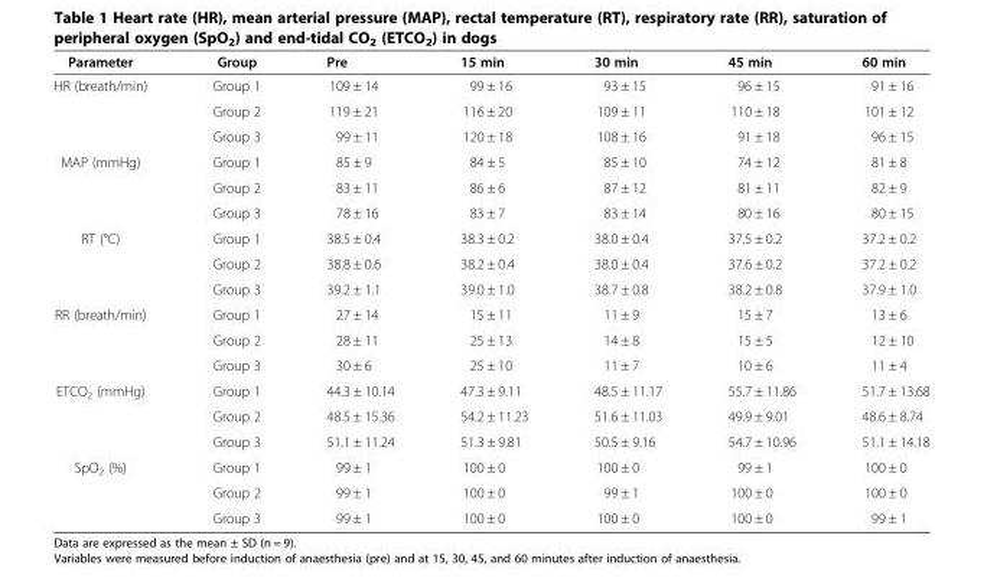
<table><thead><tr><td>Parameter</td><td>Group</td><td>Pre</td><td>15 min</td><td>30 min</td><td>45 min</td><td>60 min</td></tr></thead><tbody><tr><td rowspan="3">HR (breath/min)</td><td>Group 1</td><td>109 ± 14</td><td>99 ± 16</td><td>93 ± 15</td><td>96 ± 15</td><td>91 ± 16</td></tr><tr><td>Group 2</td><td>119 ± 21</td><td>116 ± 20</td><td>109 ± 11</td><td>110 ± 18</td><td>101 ± 12</td></tr><tr><td>Group 3</td><td>99 ± 11</td><td>120 ± 18</td><td>108 ± 16</td><td>91 ± 18</td><td>96 ± 15</td></tr><tr><td rowspan="3">MAP (mmHg)</td><td>Group 1</td><td>85 ± 9</td><td>84 ± 5</td><td>85 ± 10</td><td>74 ± 12</td><td>81 ± 8</td></tr><tr><td>Group 2</td><td>83 ± 11</td><td>86 ± 6</td><td>87 ± 12</td><td>81 ± 11</td><td>82 ± 9</td></tr><tr><td>Group 3</td><td>78 ± 16</td><td>83 ± 7</td><td>83 ± 14</td><td>80 ± 16</td><td>80 ± 15</td></tr><tr><td rowspan="3">RT (°C)</td><td>Group 1</td><td>38.5 ± 0.4</td><td>38.3 ± 0.2</td><td>38.0 ± 0.4</td><td>37.5 ± 0.2</td><td>37.2 ± 0.2</td></tr><tr><td>Group 2</td><td>38.8 ± 0.6</td><td>38.2 ± 0.4</td><td>38.0 ± 0.4</td><td>37.6 ± 0.2</td><td>37.2 ± 0.2</td></tr><tr><td>Group 3</td><td>39.2 ± 1.1</td><td>39.0 ± 1.0</td><td>38.7 ± 0.8</td><td>38.2 ± 0.8</td><td>37.9 ± 1.0</td></tr><tr><td rowspan="3">RR (breath/min)</td><td>Group 1</td><td>27 ± 14</td><td>15 ± 11</td><td>11 ± 9</td><td>15 ± 7</td><td>13 ± 6</td></tr><tr><td>Group 2</td><td>28 ± 11</td><td>25 ± 13</td><td>14 ± 8</td><td>15 ± 5</td><td>12 ± 10</td></tr><tr><td>Group 3</td><td>30 ± 6</td><td>25 ± 10</td><td>11 ± 7</td><td>10 ± 6</td><td>11 ± 4</td></tr><tr><td rowspan="3">ETCO<sub>2</sub> (mmHg)</td><td>Group 1</td><td>44.3 ± 10.14</td><td>47.3 ± 9.11</td><td>48.5 ± 11.17</td><td>55.7 ± 11.86</td><td>51.7 ± 13.68</td></tr><tr><td>Group 2</td><td>48.5 ± 15.36</td><td>54.2 ± 11.23</td><td>51.6 ± 11.03</td><td>49.9 ± 9.01</td><td>48.6 ± 8.74</td></tr><tr><td>Group 3</td><td>51.1 ± 11.24</td><td>51.3 ± 9.81</td><td>50.5 ± 9.16</td><td>54.7 ± 10.96</td><td>51.1 ± 14.18</td></tr><tr><td rowspan="3">SpO<sub>2</sub> (%)</td><td>Group 1</td><td>99 ± 1</td><td>100 ± 0</td><td>100 ± 0</td><td>99 ± 1</td><td>100 ± 0</td></tr><tr><td>Group 2</td><td>99 ± 1</td><td>100 ± 0</td><td>99 ± 1</td><td>100 ± 0</td><td>100 ± 0</td></tr><tr><td>Group 3</td><td>99 ± 1</td><td>100 ± 0</td><td>100 ± 0</td><td>100 ± 0</td><td>99 ± 1</td></tr></tbody></table>